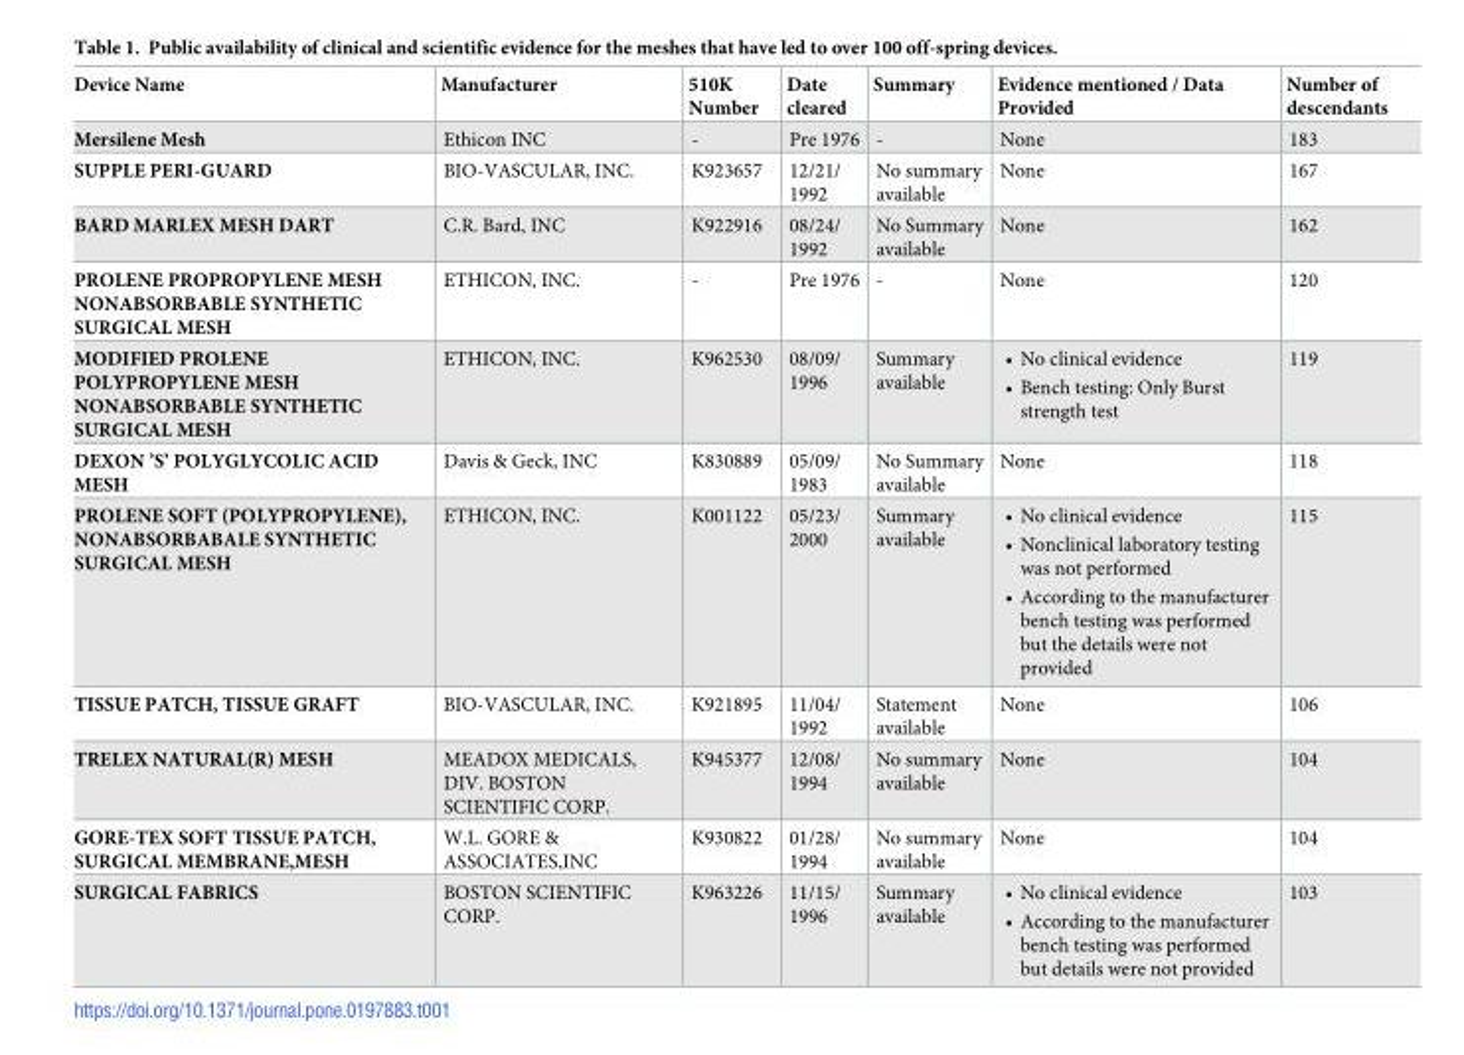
<table><thead><tr><td>Device Name</td><td>Manufacturer</td><td>510K Number</td><td>Date cleared</td><td>Summary</td><td>Evidence mentioned / Data Provided</td><td>Number of descendants</td></tr></thead><tbody><tr><td>Mersilene Mesh</td><td>Ethicon INC</td><td>-</td><td>Pre 1976</td><td>-</td><td>None</td><td>183</td></tr><tr><td>SUPPLE PERI-GUARD</td><td>BIO-VASCULAR, INC.</td><td>K923657</td><td>12/21/ 1992</td><td>No summary available</td><td>None</td><td>167</td></tr><tr><td>BARD MARLEX MESH DART</td><td>C.R. Bard, INC</td><td>K922916</td><td>08/24/ 1992</td><td>No Summary available</td><td>None</td><td>162</td></tr><tr><td>PROLENE PROPROPYLENE MESH NONABSORBABLE SYNTHETIC SURGICAL MESH</td><td>ETHICON, INC.</td><td>-</td><td>Pre 1976</td><td>-</td><td>None</td><td>120</td></tr><tr><td>MODIFIED PROLENE POLYPROPYLENE MESH NONABSORBABLE SYNTHETIC SURGICAL MESH</td><td>ETHICON, INC.</td><td>K962530</td><td>08/09/ 1996</td><td>Summary available</td><td>• No clinical evidence • Bench testing: Only Burst strength test</td><td>119</td></tr><tr><td>DEXON ’S’ POLYGLYCOLIC ACID MESH</td><td>Davis &amp; Geck, INC</td><td>K830889</td><td>05/09/ 1983</td><td>No Summary available</td><td>None</td><td>118</td></tr><tr><td>PROLENE SOFT (POLYPROPYLENE), NONABSORBABALE SYNTHETIC SURGICAL MESH</td><td>ETHICON, INC.</td><td>K001122</td><td>05/23/ 2000</td><td>Summary available</td><td>• No clinical evidence • Nonclinical laboratory testing was not performed • According to the manufacturer bench testing was performed but the details were not provided</td><td>115</td></tr><tr><td>TISSUE PATCH, TISSUE GRAFT</td><td>BIO-VASCULAR, INC.</td><td>K921895</td><td>11/04/ 1992</td><td>Statement available</td><td>None</td><td>106</td></tr><tr><td>TRELEX NATURAL(R) MESH</td><td>MEADOX MEDICALS, DIV. BOSTON SCIENTIFIC CORP.</td><td>K945377</td><td>12/08/ 1994</td><td>No summary available</td><td>None</td><td>104</td></tr><tr><td>GORE-TEX SOFT TISSUE PATCH, SURGICAL MEMBRANE,MESH</td><td>W.L. GORE &amp; ASSOCIATES,INC</td><td>K930822</td><td>01/28/ 1994</td><td>No summary available</td><td>None</td><td>104</td></tr><tr><td>SURGICAL FABRICS</td><td>BOSTON SCIENTIFIC CORP.</td><td>K963226</td><td>11/15/ 1996</td><td>Summary available</td><td>• No clinical evidence • According to the manufacturer bench testing was performed but details were not provided</td><td>103</td></tr></tbody></table>